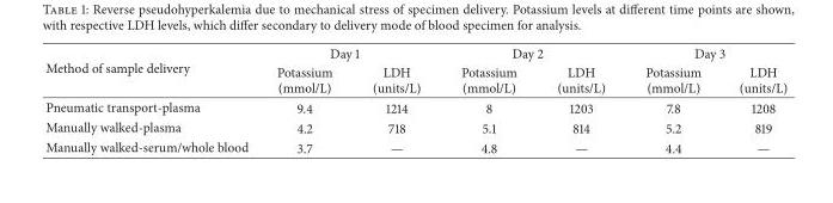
<table><thead><tr><td rowspan="2">Method of sample delivery</td><td colspan="2">Day 1</td><td colspan="2">Day 2</td><td colspan="2">Day 3</td></tr><tr><td>Potassium (mmol/L)</td><td>LDH (units/L)</td><td>Potassium (mmol/L)</td><td>LDH (units/L)</td><td>Potassium (mmol/L)</td><td>LDH (units/L)</td></tr></thead><tbody><tr><td>Pneumatic transport-plasma</td><td>9.4</td><td>1214</td><td>8</td><td>1203</td><td>7.8</td><td>1208</td></tr><tr><td>Manually walked-plasma</td><td>4.2</td><td>718</td><td>5.1</td><td>814</td><td>5.2</td><td>819</td></tr><tr><td>Manually walked-serum/whole blood</td><td>3.7</td><td>—</td><td>4.8</td><td>—</td><td>4.4</td><td>—</td></tr></tbody></table>